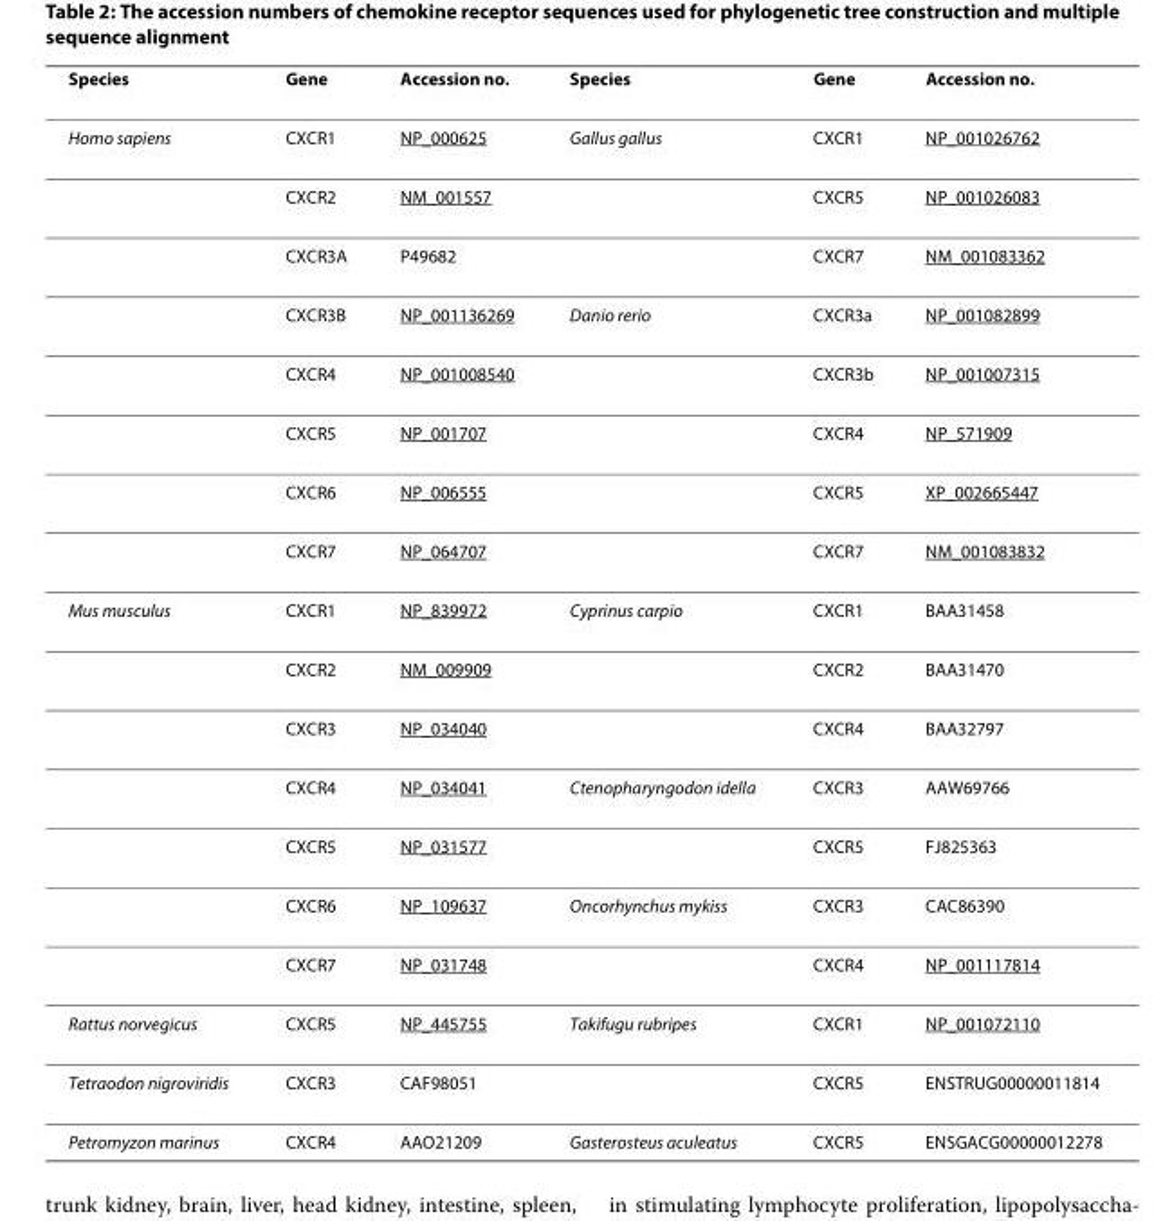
<table><thead><tr><td>Species</td><td>Gene</td><td>Accession no.</td><td>Species</td><td>Gene</td><td>Accession no.</td></tr></thead><tbody><tr><td rowspan="8">Homo sapiens</td><td>CXCR1</td><td>NP_000625</td><td>Gallus gallus</td><td>CXCR1</td><td>NP_001026762</td></tr><tr><td>CXCR2</td><td>NM_001557</td><td></td><td>CXCR5</td><td>NP_001026083</td></tr><tr><td>CXCR3A</td><td>P49682</td><td></td><td>CXCR7</td><td>NM_001083362</td></tr><tr><td>CXCR3B</td><td>NP_001136269</td><td>Danio rerio</td><td>CXCR3a</td><td>NP_001082899</td></tr><tr><td>CXCR4</td><td>NP_001008540</td><td></td><td>CXCR3b</td><td>NP_001007315</td></tr><tr><td>CXCR5</td><td>NP_001707</td><td></td><td>CXCR4</td><td>NP_571909</td></tr><tr><td>CXCR6</td><td>NP_006555</td><td></td><td>CXCR5</td><td>XP_002665447</td></tr><tr><td>CXCR7</td><td>NP_064707</td><td></td><td>CXCR7</td><td>NM_001083832</td></tr><tr><td rowspan="7">Mus musculus</td><td>CXCR1</td><td>NP_839972</td><td>Cyprinus carpio</td><td>CXCR1</td><td>BAA31458</td></tr><tr><td>CXCR2</td><td>NM_009909</td><td></td><td>CXCR2</td><td>BAA31470</td></tr><tr><td>CXCR3</td><td>NP_034040</td><td></td><td>CXCR4</td><td>BAA32797</td></tr><tr><td>CXCR4</td><td>NP_034041</td><td>Ctenopharyngodon idella</td><td>CXCR3</td><td>AAW69766</td></tr><tr><td>CXCR5</td><td>NP_031577</td><td></td><td>CXCR5</td><td>FJ825363</td></tr><tr><td>CXCR6</td><td>NP_109637</td><td>Oncorhynchus mykiss</td><td>CXCR3</td><td>CAC86390</td></tr><tr><td>CXCR7</td><td>NP_031748</td><td></td><td>CXCR4</td><td>NP_001117814</td></tr><tr><td>Rattus norvegicus</td><td>CXCR5</td><td>NP_445755</td><td>Takifugu rubripes</td><td>CXCR1</td><td>NP_001072110</td></tr><tr><td>Tetraodon nigroviridis</td><td>CXCR3</td><td>CAF98051</td><td></td><td>CXCR5</td><td>ENSTRUG00000011814</td></tr><tr><td>Petromyzon marinus</td><td>CXCR4</td><td>AAO21209</td><td>Gasterosteus aculeatus</td><td>CXCR5</td><td>ENSGACG00000012278</td></tr></tbody></table>